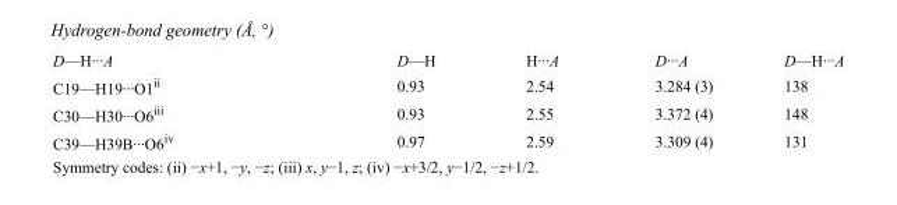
<table><tbody><tr><td>D—H···A</td><td>D—H</td><td>H···A</td><td>D···A</td><td>D—H···A</td></tr><tr><td>C19—H19···O1<sup>ii</sup></td><td>0.93</td><td>2.54</td><td>3.284 (3)</td><td>138</td></tr><tr><td>C30—H30···O6<sup>iii</sup></td><td>0.93</td><td>2.55</td><td>3.372 (4)</td><td>148</td></tr><tr><td>C39—H39B···O6<sup>iv</sup></td><td>0.97</td><td>2.59</td><td>3.309 (4)</td><td>131</td></tr></tbody></table>